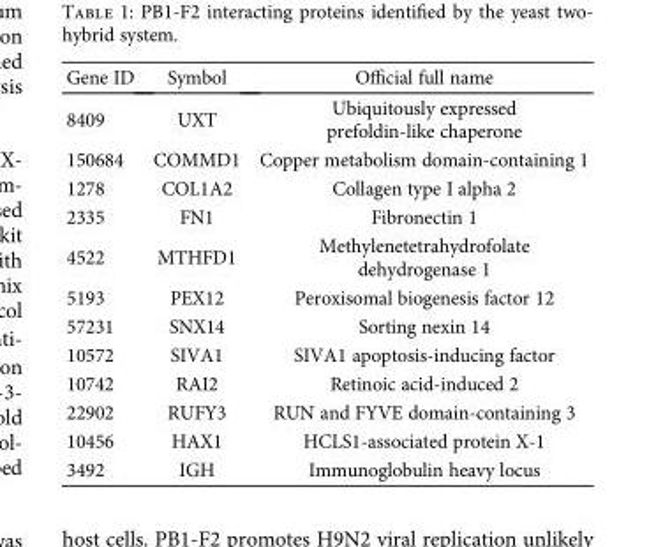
<table><thead><tr><td>Gene ID</td><td>Symbol</td><td>Official full name</td></tr></thead><tbody><tr><td>8409</td><td>UXT</td><td>Ubiquitously expressed prefoldin-like chaperone</td></tr><tr><td>150684</td><td>COMMD1</td><td>Copper metabolism domain-containing 1</td></tr><tr><td>1278</td><td>COL1A2</td><td>Collagen type I alpha 2</td></tr><tr><td>2335</td><td>FN1</td><td>Fibronectin 1</td></tr><tr><td>4522</td><td>MTHFD1</td><td>Methylenetetrahydrofolate dehydrogenase 1</td></tr><tr><td>5193</td><td>PEX12</td><td>Peroxisomal biogenesis factor 12</td></tr><tr><td>57231</td><td>SNX14</td><td>Sorting nexin 14</td></tr><tr><td>10572</td><td>SIVA1</td><td>SIVA1 apoptosis-inducing factor</td></tr><tr><td>10742</td><td>RAI2</td><td>Retinoic acid-induced 2</td></tr><tr><td>22902</td><td>RUFY3</td><td>RUN and FYVE domain-containing 3</td></tr><tr><td>10456</td><td>HAX1</td><td>HCLS1-associated protein X-1</td></tr><tr><td>3492</td><td>IGH</td><td>Immunoglobulin heavy locus</td></tr></tbody></table>